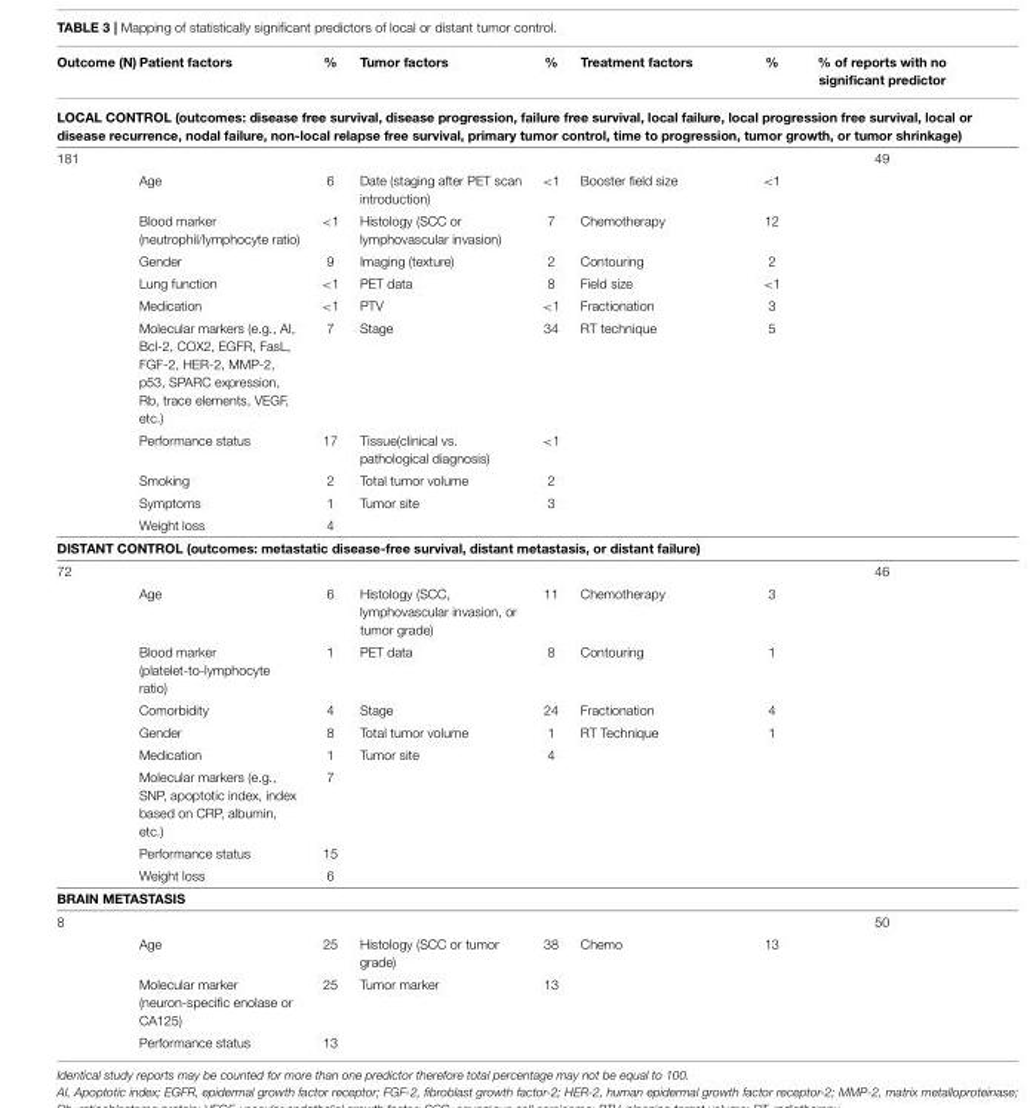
<table><thead><tr><td>Outcome (N)</td><td>Patient factors</td><td>%</td><td>Tumor factors</td><td>%</td><td>Treatment factors</td><td>%</td><td>% of reports with no significant predictor</td></tr></thead><tbody><tr><td colspan="8">LOCAL CONTROL (outcomes: disease free survival, disease progression, failure free survival, local failure, local progression free survival, local or disease recurrence, nodal failure, non-local relapse free survival, primary tumor control, time to progression, tumor growth, or tumor shrinkage)</td></tr><tr><td rowspan="11">181</td><td></td><td></td><td></td><td></td><td></td><td></td><td>49</td></tr><tr><td>Age</td><td>6</td><td>Date (staging after PET scan introduction)</td><td>&lt;1</td><td>Booster field size</td><td>&lt;1</td><td></td></tr><tr><td>Blood marker (neutrophil/lymphocyte ratio)</td><td>&lt;1</td><td>Histology (SCC or lymphovascular invasion)</td><td>7</td><td>Chemotherapy</td><td>12</td><td></td></tr><tr><td>Gender</td><td>9</td><td>Imaging (texture)</td><td>2</td><td>Contouring</td><td>2</td><td></td></tr><tr><td>Lung function</td><td>&lt;1</td><td>PET data</td><td>8</td><td>Field size</td><td>&lt;1</td><td></td></tr><tr><td>Medication</td><td>&lt;1</td><td>PTV</td><td>&lt;1</td><td>Fractionation</td><td>3</td><td></td></tr><tr><td>Molecular markers (e.g., AI, Bcl-2, COX2, EGFR, FasL, FGF-2, HER-2, MMP-2, p53, SPARC expression, Rb, trace elements, VEGF, etc.)</td><td>7</td><td>Stage</td><td>34</td><td>RT technique</td><td>5</td><td></td></tr><tr><td>Performance status</td><td>17</td><td>Tissue(clinical vs. pathological diagnosis)</td><td>&lt;1</td><td></td><td></td><td></td></tr><tr><td>Smoking</td><td>2</td><td>Total tumor volume</td><td>2</td><td></td><td></td><td></td></tr><tr><td>Symptoms</td><td>1</td><td>Tumor site</td><td>3</td><td></td><td></td><td></td></tr><tr><td>Weight loss</td><td>4</td><td></td><td></td><td></td><td></td><td></td></tr><tr><td colspan="8">DISTANT CONTROL (outcomes: metastatic disease-free survival, distant metastasis, or distant failure)</td></tr><tr><td rowspan="9">72</td><td></td><td></td><td></td><td></td><td></td><td></td><td>46</td></tr><tr><td>Age</td><td>6</td><td>Histology (SCC, lymphovascular invasion, or tumor grade)</td><td>11</td><td>Chemotherapy</td><td>3</td><td></td></tr><tr><td>Blood marker (platelet-to-lymphocyte ratio)</td><td>1</td><td>PET data</td><td>8</td><td>Contouring</td><td>1</td><td></td></tr><tr><td>Comorbidity</td><td>4</td><td>Stage</td><td>24</td><td>Fractionation</td><td>4</td><td></td></tr><tr><td>Gender</td><td>8</td><td>Total tumor volume</td><td>1</td><td>RT Technique</td><td>1</td><td></td></tr><tr><td>Medication</td><td>1</td><td>Tumor site</td><td>4</td><td></td><td></td><td></td></tr><tr><td>Molecular markers (e.g., SNP, apoptotic index, index based on CRP, albumin, etc.)</td><td>7</td><td></td><td></td><td></td><td></td><td></td></tr><tr><td>Performance status</td><td>15</td><td></td><td></td><td></td><td></td><td></td></tr><tr><td>Weight loss</td><td>6</td><td></td><td></td><td></td><td></td><td></td></tr><tr><td colspan="8">BRAIN METASTASIS</td></tr><tr><td rowspan="4">8</td><td></td><td></td><td></td><td></td><td></td><td></td><td>50</td></tr><tr><td>Age</td><td>25</td><td>Histology (SCC or tumor grade)</td><td>38</td><td>Chemo</td><td>13</td><td></td></tr><tr><td>Molecular marker (neuron-specific enolase or CA125)</td><td>25</td><td>Tumor marker</td><td>13</td><td></td><td></td><td></td></tr><tr><td>Performance status</td><td>13</td><td></td><td></td><td></td><td></td><td></td></tr></tbody></table>